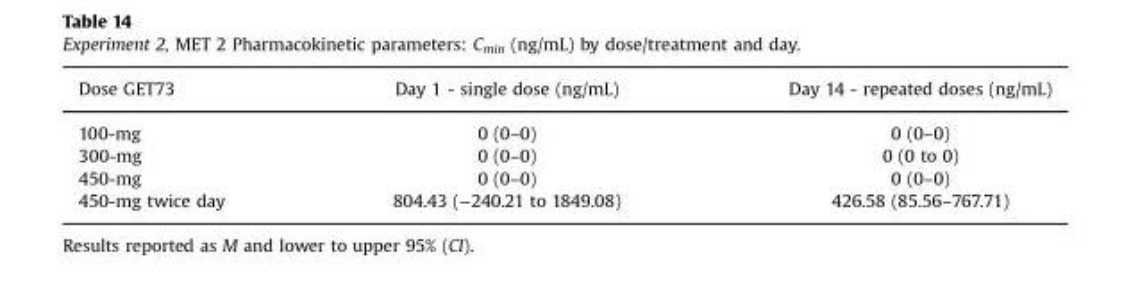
<table><thead><tr><td>Dose GET73</td><td>Day 1 - single dose (ng/mL)</td><td>Day 14 - repeated doses (ng/mL)</td></tr></thead><tbody><tr><td>100-mg</td><td>0 (0–0)</td><td>0 (0–0)</td></tr><tr><td>300-mg</td><td>0 (0–0)</td><td>0 (0 to 0)</td></tr><tr><td>450-mg</td><td>0 (0–0)</td><td>0 (0–0)</td></tr><tr><td>450-mg twice day</td><td>804.43 (−240.21 to 1849.08)</td><td>426.58 (85.56–767.71)</td></tr></tbody></table>